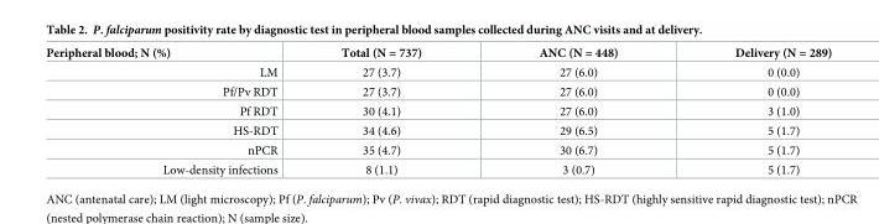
<table><thead><tr><td>Peripheral blood; N (%)</td><td>Total (N = 737)</td><td>ANC (N = 448)</td><td>Delivery (N = 289)</td></tr></thead><tbody><tr><td>LM</td><td>27 (3.7)</td><td>27 (6.0)</td><td>0 (0.0)</td></tr><tr><td>Pf/Pv RDT</td><td>27 (3.7)</td><td>27 (6.0)</td><td>0 (0.0)</td></tr><tr><td>Pf RDT</td><td>30 (4.1)</td><td>27 (6.0)</td><td>3 (1.0)</td></tr><tr><td>HS-RDT</td><td>34 (4.6)</td><td>29 (6.5)</td><td>5 (1.7)</td></tr><tr><td>nPCR</td><td>35 (4.7)</td><td>30 (6.7)</td><td>5 (1.7)</td></tr><tr><td>Low-density infections</td><td>8 (1.1)</td><td>3 (0.7)</td><td>5 (1.7)</td></tr></tbody></table>